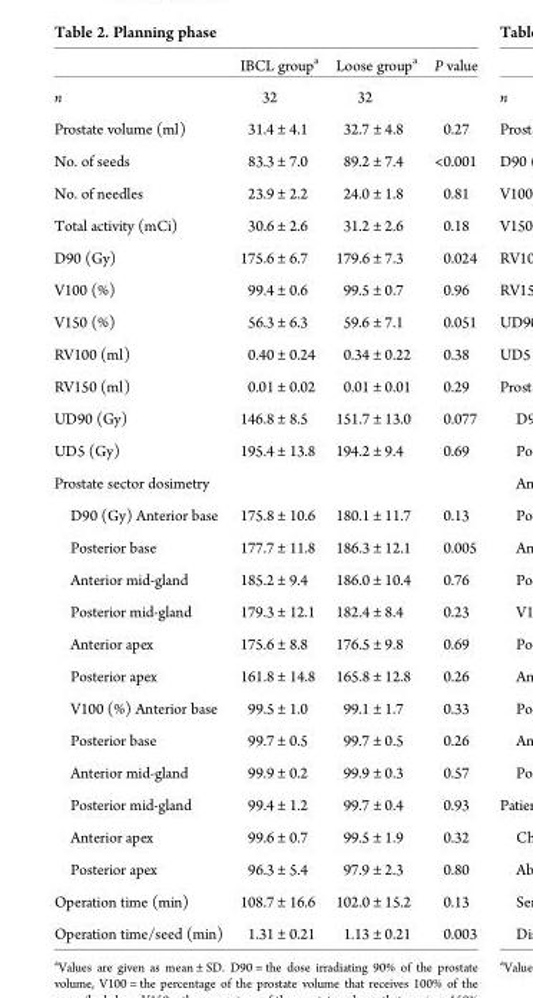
<table><thead><tr><td></td><td>IBCL group<sup>a</sup></td><td>Loose group<sup>a</sup></td><td>P value</td></tr></thead><tbody><tr><td>n</td><td>32</td><td>32</td><td></td></tr><tr><td>Prostate volume (ml)</td><td>31.4 ± 4.1</td><td>32.7 ± 4.8</td><td>0.27</td></tr><tr><td>No. of seeds</td><td>83.3 ± 7.0</td><td>89.2 ± 7.4</td><td>&lt;0.001</td></tr><tr><td>No. of needles</td><td>23.9 ± 2.2</td><td>24.0 ± 1.8</td><td>0.81</td></tr><tr><td>Total activity (mCi)</td><td>30.6 ± 2.6</td><td>31.2 ± 2.6</td><td>0.18</td></tr><tr><td>D90 (Gy)</td><td>175.6 ± 6.7</td><td>179.6 ± 7.3</td><td>0.024</td></tr><tr><td>V100 (%)</td><td>99.4 ± 0.6</td><td>99.5 ± 0.7</td><td>0.96</td></tr><tr><td>V150 (%)</td><td>56.3 ± 6.3</td><td>59.6 ± 7.1</td><td>0.051</td></tr><tr><td>RV100 (ml)</td><td>0.40 ± 0.24</td><td>0.34 ± 0.22</td><td>0.38</td></tr><tr><td>RV150 (ml)</td><td>0.01 ± 0.02</td><td>0.01 ± 0.01</td><td>0.29</td></tr><tr><td>UD90 (Gy)</td><td>146.8 ± 8.5</td><td>151.7 ± 13.0</td><td>0.077</td></tr><tr><td>UD5 (Gy)</td><td>195.4 ± 13.8</td><td>194.2 ± 9.4</td><td>0.69</td></tr><tr><td colspan="4">Prostate sector dosimetry</td></tr><tr><td>D90 (Gy) Anterior base</td><td>175.8 ± 10.6</td><td>180.1 ± 11.7</td><td>0.13</td></tr><tr><td>Posterior base</td><td>177.7 ± 11.8</td><td>186.3 ± 12.1</td><td>0.005</td></tr><tr><td>Anterior mid-gland</td><td>185.2 ± 9.4</td><td>186.0 ± 10.4</td><td>0.76</td></tr><tr><td>Posterior mid-gland</td><td>179.3 ± 12.1</td><td>182.4 ± 8.4</td><td>0.23</td></tr><tr><td>Anterior apex</td><td>175.6 ± 8.8</td><td>176.5 ± 9.8</td><td>0.69</td></tr><tr><td>Posterior apex</td><td>161.8 ± 14.8</td><td>165.8 ± 12.8</td><td>0.26</td></tr><tr><td>V100 (%) Anterior base</td><td>99.5 ± 1.0</td><td>99.1 ± 1.7</td><td>0.33</td></tr><tr><td>Posterior base</td><td>99.7 ± 0.5</td><td>99.7 ± 0.5</td><td>0.26</td></tr><tr><td>Anterior mid-gland</td><td>99.9 ± 0.2</td><td>99.9 ± 0.3</td><td>0.57</td></tr><tr><td>Posterior mid-gland</td><td>99.4 ± 1.2</td><td>99.7 ± 0.4</td><td>0.93</td></tr><tr><td>Anterior apex</td><td>99.6 ± 0.7</td><td>99.5 ± 1.9</td><td>0.32</td></tr><tr><td>Posterior apex</td><td>96.3 ± 5.4</td><td>97.9 ± 2.3</td><td>0.80</td></tr><tr><td>Operation time (min)</td><td>108.7 ± 16.6</td><td>102.0 ± 15.2</td><td>0.13</td></tr><tr><td>Operation time/seed (min)</td><td>1.31 ± 0.21</td><td>1.13 ± 0.21</td><td>0.003</td></tr></tbody></table>